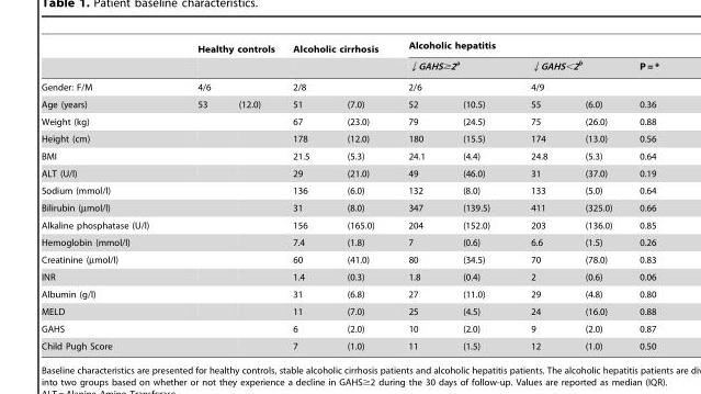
<table><thead><tr><td rowspan="4">Gender: F/M Age (years)</td><td colspan="2">Healthy controls</td><td colspan="2">Alcoholic cirrhosis</td><td colspan="5">Alcoholic hepatitis</td></tr><tr><td rowspan="3">4/6 53</td><td rowspan="3">(12.0)</td><td rowspan="3">2/8 51</td><td rowspan="3">(7.0)</td><td rowspan="2" colspan="2">↓GAHS≥2<sup>a</sup> 2/6</td><td rowspan="2" colspan="2">↓GAHS&lt;2<sup>b</sup> 4/9</td><td rowspan="3">P = * 0.36</td></tr><tr></tr><tr><td>52</td><td>(10.5)</td><td>55</td><td>(6.0)</td></tr></thead><tbody><tr><td>Weight (kg)</td><td></td><td></td><td>67</td><td>(23.0)</td><td>79</td><td>(24.5)</td><td>75</td><td>(26.0)</td><td>0.88</td></tr><tr><td>Height (cm)</td><td></td><td></td><td>178</td><td>(12.0)</td><td>180</td><td>(15.5)</td><td>174</td><td>(13.0)</td><td>0.56</td></tr><tr><td>BMI</td><td></td><td></td><td>21.5</td><td>(5.3)</td><td>24.1</td><td>(4.4)</td><td>24.8</td><td>(5.3)</td><td>0.64</td></tr><tr><td>ALT (U/l)</td><td></td><td></td><td>29</td><td>(21.0)</td><td>49</td><td>(46.0)</td><td>31</td><td>(37.0)</td><td>0.19</td></tr><tr><td colspan="2">Sodium (mmol/l)</td><td></td><td>136</td><td>(6.0)</td><td>132</td><td>(8.0)</td><td>133</td><td>(5.0)</td><td>0.64</td></tr><tr><td colspan="2">Bilirubin (µmol/l)</td><td></td><td>31</td><td>(8.0)</td><td>347</td><td>(139.5)</td><td>411</td><td>(325.0)</td><td>0.66</td></tr><tr><td colspan="2">Alkaline phosphatase (U/l)</td><td></td><td>156</td><td>(165.0)</td><td>204</td><td>(152.0)</td><td>203</td><td>(136.0)</td><td>0.85</td></tr><tr><td colspan="2">Hemoglobin (mmol/l)</td><td></td><td>7.4</td><td>(1.8)</td><td>7</td><td>(0.6)</td><td>6.6</td><td>(1.5)</td><td>0.26</td></tr><tr><td colspan="2">Creatinine (µmol/l)</td><td></td><td>60</td><td>(41.0)</td><td>80</td><td>(34.5)</td><td>70</td><td>(78.0)</td><td>0.83</td></tr><tr><td>INR</td><td></td><td></td><td>1.4</td><td>(0.3)</td><td>1.8</td><td>(0.4)</td><td>2</td><td>(0.6)</td><td>0.06</td></tr><tr><td>Albumin (g/l)</td><td></td><td></td><td>31</td><td>(6.8)</td><td>27</td><td>(11.0)</td><td>29</td><td>(4.8)</td><td>0.80</td></tr><tr><td>MELD</td><td></td><td></td><td>11</td><td>(7.0)</td><td>25</td><td>(4.5)</td><td>24</td><td>(16.0)</td><td>0.88</td></tr><tr><td>GAHS</td><td></td><td></td><td>6</td><td>(2.0)</td><td>10</td><td>(2.0)</td><td>9</td><td>(2.0)</td><td>0.87</td></tr><tr><td colspan="2">Child Pugh Score</td><td></td><td>7</td><td>(1.0)</td><td>11</td><td>(1.5)</td><td>12</td><td>(1.0)</td><td>0.50</td></tr></tbody></table>